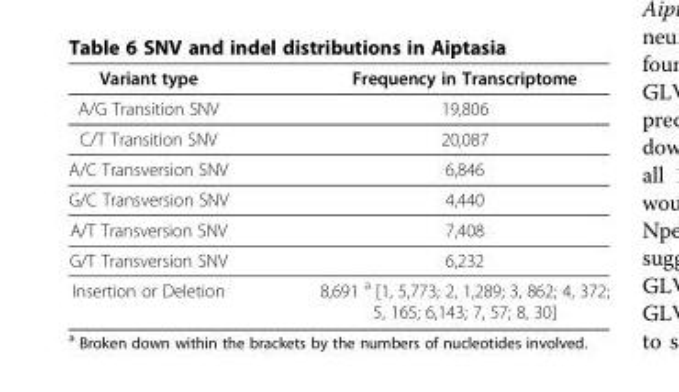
<table><thead><tr><td>Variant type</td><td>Frequency in Transcriptome</td></tr></thead><tbody><tr><td>A/G Transition SNV</td><td>19,806</td></tr><tr><td>C/T Transition SNV</td><td>20,087</td></tr><tr><td>A/C Transversion SNV</td><td>6,846</td></tr><tr><td>G/C Transversion SNV</td><td>4,440</td></tr><tr><td>A/T Transversion SNV</td><td>7,408</td></tr><tr><td>G/T Transversion SNV</td><td>6,232</td></tr><tr><td>Insertion or Deletion</td><td>8,691 <sup>a</sup> [1, 5,773; 2, 1,289; 3, 862; 4, 372; 5, 165; 6,143; 7, 57; 8, 30]</td></tr></tbody></table>